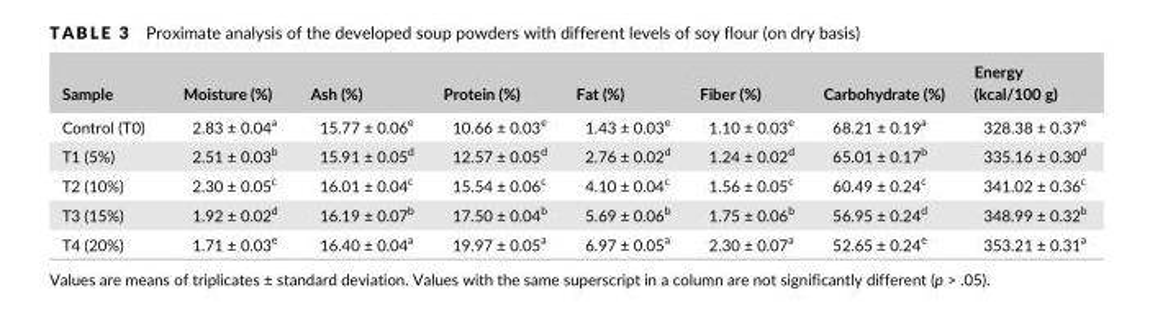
<table><thead><tr><td>Sample</td><td>Moisture (%)</td><td>Ash (%)</td><td>Protein (%)</td><td>Fat (%)</td><td>Fiber (%)</td><td>Carbohydrate (%)</td><td>Energy (kcal/100 g)</td></tr></thead><tbody><tr><td>Control (T0)</td><td>2.83 ± 0.04<sup>a</sup></td><td>15.77 ± 0.06<sup>e</sup></td><td>10.66 ± 0.03<sup>e</sup></td><td>1.43 ± 0.03<sup>e</sup></td><td>1.10 ± 0.03<sup>e</sup></td><td>68.21 ± 0.19<sup>a</sup></td><td>328.38 ± 0.37<sup>e</sup></td></tr><tr><td>T1 (5%)</td><td>2.51 ± 0.03<sup>b</sup></td><td>15.91 ± 0.05<sup>d</sup></td><td>12.57 ± 0.05<sup>d</sup></td><td>2.76 ± 0.02<sup>d</sup></td><td>1.24 ± 0.02<sup>d</sup></td><td>65.01 ± 0.17<sup>b</sup></td><td>335.16 ± 0.30<sup>d</sup></td></tr><tr><td>T2 (10%)</td><td>2.30 ± 0.05<sup>c</sup></td><td>16.01 ± 0.04<sup>c</sup></td><td>15.54 ± 0.06<sup>c</sup></td><td>4.10 ± 0.04<sup>c</sup></td><td>1.56 ± 0.05<sup>c</sup></td><td>60.49 ± 0.24<sup>c</sup></td><td>341.02 ± 0.36<sup>c</sup></td></tr><tr><td>T3 (15%)</td><td>1.92 ± 0.02<sup>d</sup></td><td>16.19 ± 0.07<sup>b</sup></td><td>17.50 ± 0.04<sup>b</sup></td><td>5.69 ± 0.06<sup>b</sup></td><td>1.75 ± 0.06<sup>b</sup></td><td>56.95 ± 0.24<sup>d</sup></td><td>348.99 ± 0.32<sup>b</sup></td></tr><tr><td>T4 (20%)</td><td>1.71 ± 0.03<sup>e</sup></td><td>16.40 ± 0.04<sup>a</sup></td><td>19.97 ± 0.05<sup>a</sup></td><td>6.97 ± 0.05<sup>a</sup></td><td>2.30 ± 0.07<sup>a</sup></td><td>52.65 ± 0.24<sup>e</sup></td><td>353.21 ± 0.31<sup>a</sup></td></tr></tbody></table>